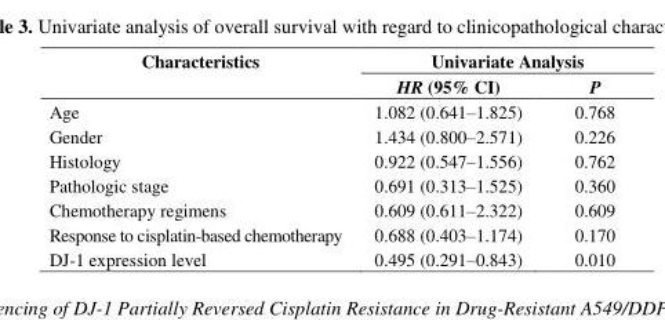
<table><thead><tr><td rowspan="2">Characteristics</td><td colspan="2">Univariate Analysis</td></tr><tr><td>HR (95% CI)</td><td>P</td></tr></thead><tbody><tr><td>Age</td><td>1.082 (0.641–1.825)</td><td>0.768</td></tr><tr><td>Gender</td><td>1.434 (0.800–2.571)</td><td>0.226</td></tr><tr><td>Histology</td><td>0.922 (0.547–1.556)</td><td>0.762</td></tr><tr><td>Pathologic stage</td><td>0.691 (0.313–1.525)</td><td>0.360</td></tr><tr><td>Chemotherapy regimens</td><td>0.609 (0.611–2.322)</td><td>0.609</td></tr><tr><td>Response to cisplatin-based chemotherapy</td><td>0.688 (0.403–1.174)</td><td>0.170</td></tr><tr><td>DJ-1 expression level</td><td>0.495 (0.291–0.843)</td><td>0.010</td></tr></tbody></table>